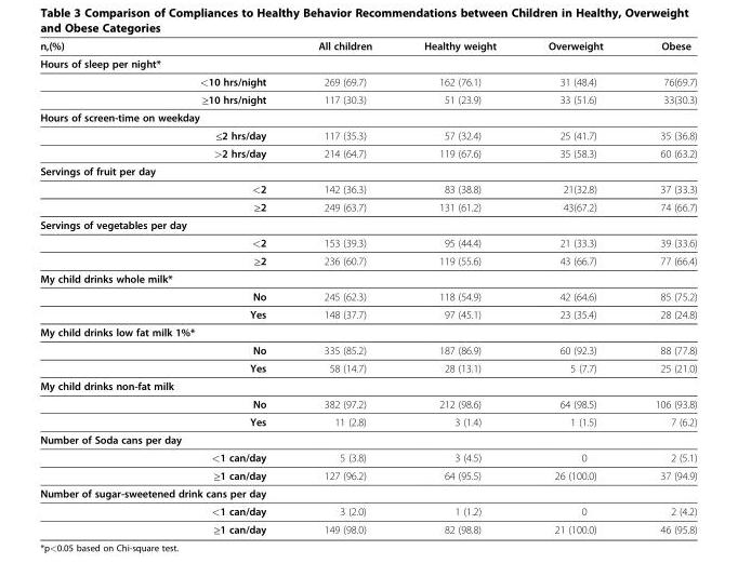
<table><thead><tr><td>n,(%)</td><td>All children</td><td>Healthy weight</td><td>Overweight</td><td>Obese</td></tr></thead><tbody><tr><td colspan="5">Hours of sleep per night*</td></tr><tr><td>&lt;10 hrs/night</td><td>269 (69.7)</td><td>162 (76.1)</td><td>31 (48.4)</td><td>76(69.7)</td></tr><tr><td>≥10 hrs/night</td><td>117 (30.3)</td><td>51 (23.9)</td><td>33 (51.6)</td><td>33(30.3)</td></tr><tr><td colspan="5">Hours of screen-time on weekday</td></tr><tr><td>≤2 hrs/day</td><td>117 (35.3)</td><td>57 (32.4)</td><td>25 (41.7)</td><td>35 (36.8)</td></tr><tr><td>&gt;2 hrs/day</td><td>214 (64.7)</td><td>119 (67.6)</td><td>35 (58.3)</td><td>60 (63.2)</td></tr><tr><td colspan="5">Servings of fruit per day</td></tr><tr><td>&lt;2</td><td>142 (36.3)</td><td>83 (38.8)</td><td>21(32.8)</td><td>37 (33.3)</td></tr><tr><td>≥2</td><td>249 (63.7)</td><td>131 (61.2)</td><td>43(67.2)</td><td>74 (66.7)</td></tr><tr><td colspan="5">Servings of vegetables per day</td></tr><tr><td>&lt;2</td><td>153 (39.3)</td><td>95 (44.4)</td><td>21 (33.3)</td><td>39 (33.6)</td></tr><tr><td>≥2</td><td>236 (60.7)</td><td>119 (55.6)</td><td>43 (66.7)</td><td>77 (66.4)</td></tr><tr><td colspan="5">My child drinks whole milk*</td></tr><tr><td>No</td><td>245 (62.3)</td><td>118 (54.9)</td><td>42 (64.6)</td><td>85 (75.2)</td></tr><tr><td>Yes</td><td>148 (37.7)</td><td>97 (45.1)</td><td>23 (35.4)</td><td>28 (24.8)</td></tr><tr><td colspan="5">My child drinks low fat milk 1%*</td></tr><tr><td>No</td><td>335 (85.2)</td><td>187 (86.9)</td><td>60 (92.3)</td><td>88 (77.8)</td></tr><tr><td>Yes</td><td>58 (14.7)</td><td>28 (13.1)</td><td>5 (7.7)</td><td>25 (21.0)</td></tr><tr><td colspan="5">My child drinks non-fat milk</td></tr><tr><td>No</td><td>382 (97.2)</td><td>212 (98.6)</td><td>64 (98.5)</td><td>106 (93.8)</td></tr><tr><td>Yes</td><td>11 (2.8)</td><td>3 (1.4)</td><td>1 (1.5)</td><td>7 (6.2)</td></tr><tr><td colspan="5">Number of Soda cans per day</td></tr><tr><td>&lt;1 can/day</td><td>5 (3.8)</td><td>3 (4.5)</td><td>0</td><td>2 (5.1)</td></tr><tr><td>≥1 can/day</td><td>127 (96.2)</td><td>64 (95.5)</td><td>26 (100.0)</td><td>37 (94.9)</td></tr><tr><td colspan="5">Number of sugar-sweetened drink cans per day</td></tr><tr><td>&lt;1 can/day</td><td>3 (2.0)</td><td>1 (1.2)</td><td>0</td><td>2 (4.2)</td></tr><tr><td>≥1 can/day</td><td>149 (98.0)</td><td>82 (98.8)</td><td>21 (100.0)</td><td>46 (95.8)</td></tr></tbody></table>